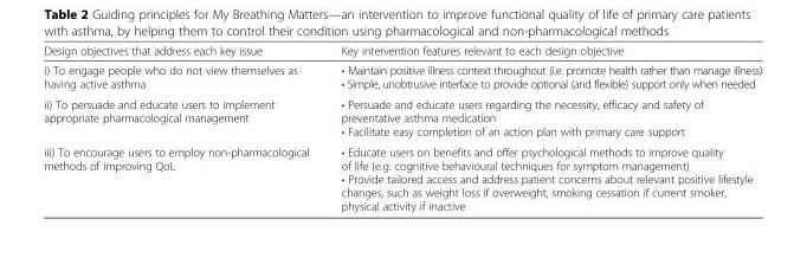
<table><thead><tr><td>Design objectives that address each key issue</td><td>Key intervention features relevant to each design objective</td></tr></thead><tbody><tr><td>i) To engage people who do not view themselves as having active asthma</td><td>• Maintain positive illness context throughout (i.e. promote health rather than manage illness) • Simple, unobtrusive interface to provide optional (and flexible) support only when needed</td></tr><tr><td>ii) To persuade and educate users to implement appropriate pharmacological management</td><td>• Persuade and educate users regarding the necessity, efficacy and safety of preventative asthma medication • Facilitate easy completion of an action plan with primary care support</td></tr><tr><td>iii) To encourage users to employ non-pharmacological methods of improving QoL</td><td>• Educate users on benefits and offer psychological methods to improve quality of life (e.g. cognitive behavioural techniques for symptom management) • Provide tailored access and address patient concerns about relevant positive lifestyle changes, such as weight loss if overweight, smoking cessation if current smoker, physical activity if inactive</td></tr></tbody></table>